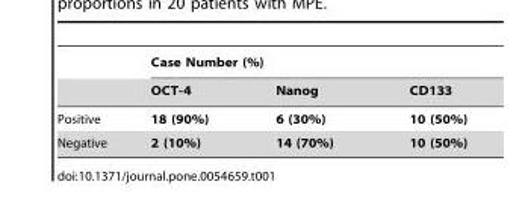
<table><thead><tr><td rowspan="2"></td><td colspan="3">Case Number (%)</td></tr><tr><td>OCT-4</td><td>Nanog</td><td>CD133</td></tr></thead><tbody><tr><td>Positive</td><td>18 (90%)</td><td>6 (30%)</td><td>10 (50%)</td></tr><tr><td>Negative</td><td>2 (10%)</td><td>14 (70%)</td><td>10 (50%)</td></tr></tbody></table>